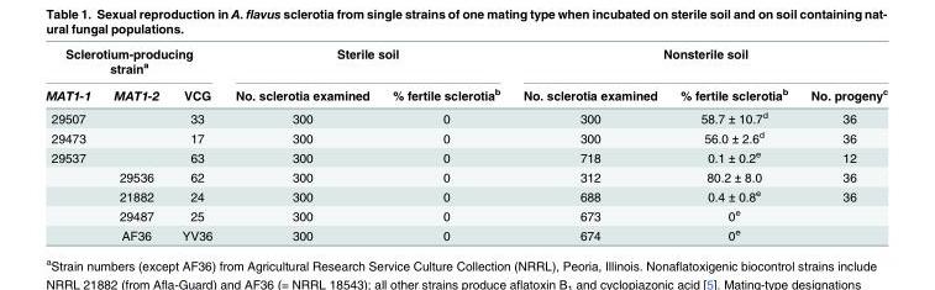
<table><thead><tr><td colspan="3">Sclerotium-producing strain<sup>a</sup></td><td colspan="2">Sterile soil</td><td colspan="3">Nonsterile soil</td></tr><tr><td>MAT1-1</td><td>MAT1-2</td><td>VCG</td><td>No. sclerotia examined</td><td>% fertile sclerotia<sup>b</sup></td><td>No. sclerotia examined</td><td>% fertile sclerotia<sup>b</sup></td><td>No. progeny<sup>c</sup></td></tr></thead><tbody><tr><td>29507</td><td></td><td>33</td><td>300</td><td>0</td><td>300</td><td>58.7 ± 10.7<sup>d</sup></td><td>36</td></tr><tr><td>29473</td><td></td><td>17</td><td>300</td><td>0</td><td>300</td><td>56.0 ± 2.6<sup>d</sup></td><td>36</td></tr><tr><td rowspan="5">29537</td><td></td><td>63</td><td>300</td><td>0</td><td>718</td><td>0.1 ± 0.2<sup>e</sup></td><td>12</td></tr><tr><td>29536</td><td>62</td><td>300</td><td>0</td><td>312</td><td>80.2 ± 8.0</td><td>36</td></tr><tr><td>21882</td><td>24</td><td>300</td><td>0</td><td>688</td><td>0.4 ± 0.8<sup>e</sup></td><td>36</td></tr><tr><td>29487</td><td>25</td><td>300</td><td>0</td><td>673</td><td>0<sup>e</sup></td><td></td></tr><tr><td>AF36</td><td>YV36</td><td>300</td><td>0</td><td>674</td><td>0<sup>e</sup></td><td></td></tr></tbody></table>